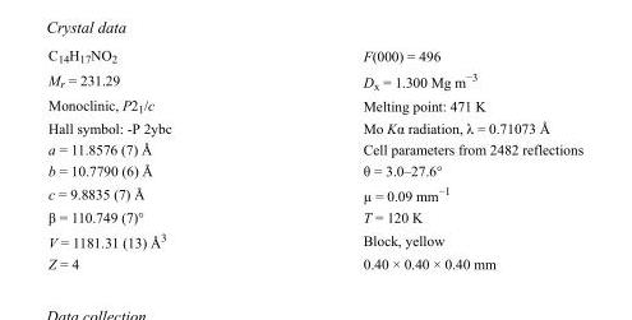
<table><tbody><tr><td>C<sub>14</sub>H<sub>17</sub>NO<sub>2</sub></td><td>F(000) = 496</td></tr><tr><td>M<sub>r</sub> = 231.29</td><td>D<sub>x</sub> = 1.300 Mg m<sup>−3</sup></td></tr><tr><td>Monoclinic, P2<sub>1</sub>/c</td><td>Melting point: 471 K</td></tr><tr><td>Hall symbol: -P 2ybc</td><td>Mo Kα radiation, λ = 0.71073 Å</td></tr><tr><td>a = 11.8576 (7) Å</td><td>Cell parameters from 2482 reflections</td></tr><tr><td>b = 10.7790 (6) Å</td><td>θ = 3.0–27.6°</td></tr><tr><td>c = 9.8835 (7) Å</td><td>µ = 0.09 mm<sup>−1</sup></td></tr><tr><td>β = 110.749 (7)°</td><td>T = 120 K</td></tr><tr><td>V = 1181.31 (13) Å<sup>3</sup></td><td>Block, yellow</td></tr><tr><td>Z = 4</td><td>0.40 × 0.40 × 0.40 mm</td></tr></tbody></table>